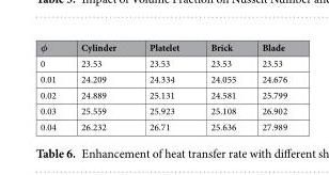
<table><thead><tr><td>φ</td><td>Cylinder</td><td>Platelet</td><td>Brick</td><td>Blade</td></tr></thead><tbody><tr><td>0</td><td>23.53</td><td>23.53</td><td>23.53</td><td>23.53</td></tr><tr><td>0.01</td><td>24.209</td><td>24.334</td><td>24.055</td><td>24.676</td></tr><tr><td>0.02</td><td>24.889</td><td>25.131</td><td>24.581</td><td>25.799</td></tr><tr><td>0.03</td><td>25.559</td><td>25.923</td><td>25.108</td><td>26.902</td></tr><tr><td>0.04</td><td>26.232</td><td>26.71</td><td>25.636</td><td>27.989</td></tr></tbody></table>